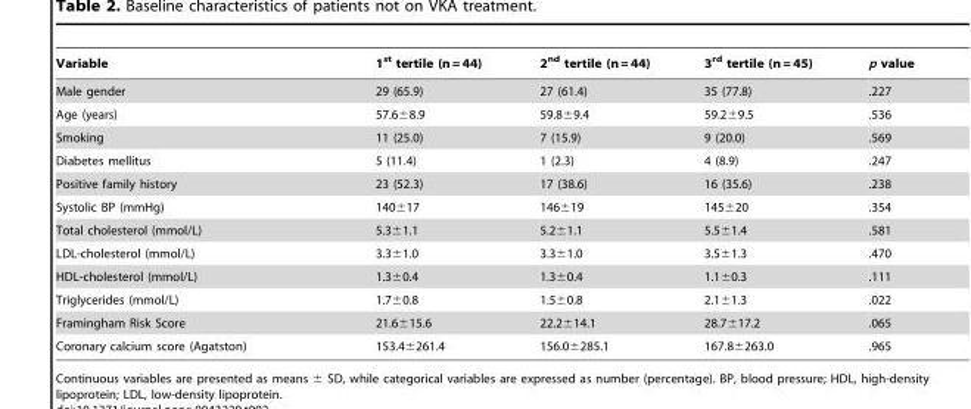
<table><thead><tr><td>Variable</td><td>1<sup>st</sup> tertile (n = 44)</td><td>2<sup>nd</sup> tertile (n = 44)</td><td>3<sup>rd</sup> tertile (n = 45)</td><td>p value</td></tr></thead><tbody><tr><td>Male gender</td><td>29 (65.9)</td><td>27 (61.4)</td><td>35 (77.8)</td><td>.227</td></tr><tr><td>Age (years)</td><td>57.6±8.9</td><td>59.8±9.4</td><td>59.2±9.5</td><td>.536</td></tr><tr><td>Smoking</td><td>11 (25.0)</td><td>7 (15.9)</td><td>9 (20.0)</td><td>.569</td></tr><tr><td>Diabetes mellitus</td><td>5 (11.4)</td><td>1 (2.3)</td><td>4 (8.9)</td><td>.247</td></tr><tr><td>Positive family history</td><td>23 (52.3)</td><td>17 (38.6)</td><td>16 (35.6)</td><td>.238</td></tr><tr><td>Systolic BP (mmHg)</td><td>140±17</td><td>146±19</td><td>145±20</td><td>.354</td></tr><tr><td>Total cholesterol (mmol/L)</td><td>5.3±1.1</td><td>5.2±1.1</td><td>5.5±1.4</td><td>.581</td></tr><tr><td>LDL-cholesterol (mmol/L)</td><td>3.3±1.0</td><td>3.3±1.0</td><td>3.5±1.3</td><td>.470</td></tr><tr><td>HDL-cholesterol (mmol/L)</td><td>1.3±0.4</td><td>1.3±0.4</td><td>1.1±0.3</td><td>.111</td></tr><tr><td>Triglycerides (mmol/L)</td><td>1.7±0.8</td><td>1.5±0.8</td><td>2.1±1.3</td><td>.022</td></tr><tr><td>Framingham Risk Score</td><td>21.6±15.6</td><td>22.2±14.1</td><td>28.7±17.2</td><td>.065</td></tr><tr><td>Coronary calcium score (Agatston)</td><td>153.4±261.4</td><td>156.0±285.1</td><td>167.8±263.0</td><td>.965</td></tr></tbody></table>